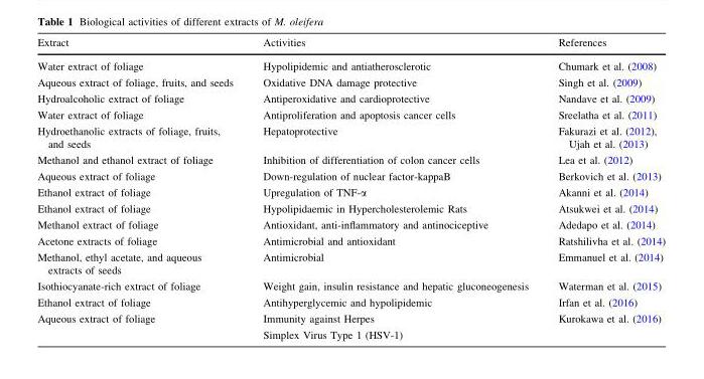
<table><thead><tr><td>Extract</td><td>Activities</td><td>References</td></tr></thead><tbody><tr><td>Water extract of foliage</td><td>Hypolipidemic and antiatherosclerotic</td><td>Chumark et al. (2008)</td></tr><tr><td>Aqueous extract of foliage, fruits, and seeds</td><td>Oxidative DNA damage protective</td><td>Singh et al. (2009)</td></tr><tr><td>Hydroalcoholic extract of foliage</td><td>Antiperoxidative and cardioprotective</td><td>Nandave et al. (2009)</td></tr><tr><td>Water extract of foliage</td><td>Antiproliferation and apoptosis cancer cells</td><td>Sreelatha et al. (2011)</td></tr><tr><td>Hydroethanolic extracts of foliage, fruits, and seeds</td><td>Hepatoprotective</td><td>Fakurazi et al. (2012), Ujah et al. (2013)</td></tr><tr><td>Methanol and ethanol extract of foliage</td><td>Inhibition of differentiation of colon cancer cells</td><td>Lea et al. (2012)</td></tr><tr><td>Aqueous extract of foliage</td><td>Down-regulation of nuclear factor-kappaB</td><td>Berkovich et al. (2013)</td></tr><tr><td>Ethanol extract of foliage</td><td>Upregulation of TNF-α</td><td>Akanni et al. (2014)</td></tr><tr><td>Ethanol extract of foliage</td><td>Hypolipidaemic in Hypercholesterolemic Rats</td><td>Atsukwei et al. (2014)</td></tr><tr><td>Methanol extract of foliage</td><td>Antioxidant, anti-inflammatory and antinociceptive</td><td>Adedapo et al. (2014)</td></tr><tr><td>Acetone extracts of foliage</td><td>Antimicrobial and antioxidant</td><td>Ratshilivha et al. (2014)</td></tr><tr><td>Methanol, ethyl acetate, and aqueous extracts of seeds</td><td>Antimicrobial</td><td>Emmanuel et al. (2014)</td></tr><tr><td>Isothiocyanate-rich extract of foliage</td><td>Weight gain, insulin resistance and hepatic gluconeogenesis</td><td>Waterman et al. (2015)</td></tr><tr><td>Ethanol extract of foliage</td><td>Antihyperglycemic and hypolipidemic</td><td>Irfan et al. (2016)</td></tr><tr><td>Aqueous extract of foliage</td><td>Immunity against Herpes Simplex Virus Type 1 (HSV-1)</td><td>Kurokawa et al. (2016)</td></tr></tbody></table>